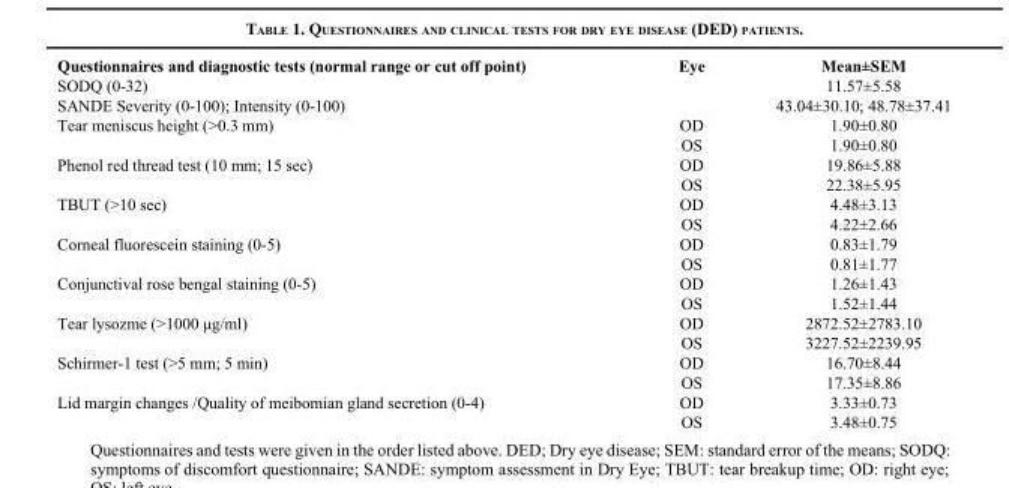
<table><thead><tr><td>Questionnaires and diagnostic tests (normal range or cut off point)</td><td>Eye</td><td>Mean±SEM</td></tr></thead><tbody><tr><td>SODQ (0-32)</td><td></td><td>11.57±5.58</td></tr><tr><td>SANDE Severity (0-100); Intensity (0-100)</td><td></td><td>43.04±30.10; 48.78±37.41</td></tr><tr><td rowspan="2">Tear meniscus height (&gt;0.3 mm)</td><td>OD</td><td>1.90±0.80</td></tr><tr><td>OS</td><td>1.90±0.80</td></tr><tr><td rowspan="2">Phenol red thread test (10 mm; 15 sec)</td><td>OD</td><td>19.86±5.88</td></tr><tr><td>OS</td><td>22.38±5.95</td></tr><tr><td rowspan="2">TBUT (&gt;10 sec)</td><td>OD</td><td>4.48±3.13</td></tr><tr><td>OS</td><td>4.22±2.66</td></tr><tr><td rowspan="2">Corneal fluorescein staining (0-5)</td><td>OD</td><td>0.83±1.79</td></tr><tr><td>OS</td><td>0.81±1.77</td></tr><tr><td rowspan="2">Conjunctival rose bengal staining (0-5)</td><td>OD</td><td>1.26±1.43</td></tr><tr><td>OS</td><td>1.52±1.44</td></tr><tr><td rowspan="2">Tear lysozme (&gt;1000 μg/ml)</td><td>OD</td><td>2872.52±2783.10</td></tr><tr><td>OS</td><td>3227.52±2239.95</td></tr><tr><td rowspan="2">Schirmer-1 test (&gt;5 mm; 5 min)</td><td>OD</td><td>16.70±8.44</td></tr><tr><td>OS</td><td>17.35±8.86</td></tr><tr><td rowspan="2">Lid margin changes /Quality of meibomian gland secretion (0-4)</td><td>OD</td><td>3.33±0.73</td></tr><tr><td>OS</td><td>3.48±0.75</td></tr></tbody></table>